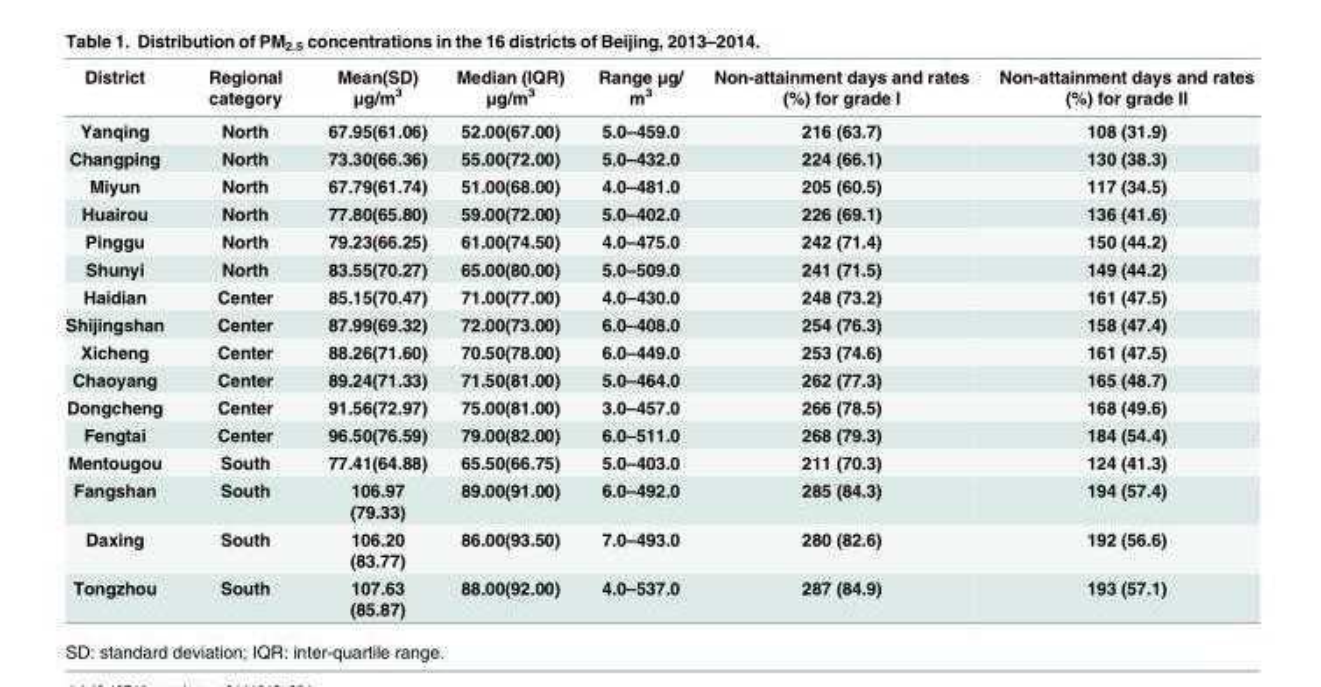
<table><thead><tr><td>District</td><td>Regional category</td><td>Mean(SD) μg/m<sup>3</sup></td><td>Median (IQR) μg/m<sup>3</sup></td><td>Range μg/ m<sup>3</sup></td><td>Non-attainment days and rates (%) for grade I</td><td>Non-attainment days and rates (%) for grade II</td></tr></thead><tbody><tr><td>Yanqing</td><td>North</td><td>67.95(61.06)</td><td>52.00(67.00)</td><td>5.0–459.0</td><td>216 (63.7)</td><td>108 (31.9)</td></tr><tr><td>Changping</td><td>North</td><td>73.30(66.36)</td><td>55.00(72.00)</td><td>5.0–432.0</td><td>224 (66.1)</td><td>130 (38.3)</td></tr><tr><td>Miyun</td><td>North</td><td>67.79(61.74)</td><td>51.00(68.00)</td><td>4.0–481.0</td><td>205 (60.5)</td><td>117 (34.5)</td></tr><tr><td>Huairou</td><td>North</td><td>77.80(65.80)</td><td>59.00(72.00)</td><td>5.0–402.0</td><td>226 (69.1)</td><td>136 (41.6)</td></tr><tr><td>Pinggu</td><td>North</td><td>79.23(66.25)</td><td>61.00(74.50)</td><td>4.0–475.0</td><td>242 (71.4)</td><td>150 (44.2)</td></tr><tr><td>Shunyi</td><td>North</td><td>83.55(70.27)</td><td>65.00(80.00)</td><td>5.0–509.0</td><td>241 (71.5)</td><td>149 (44.2)</td></tr><tr><td>Haidian</td><td>Center</td><td>85.15(70.47)</td><td>71.00(77.00)</td><td>4.0–430.0</td><td>248 (73.2)</td><td>161 (47.5)</td></tr><tr><td>Shijingshan</td><td>Center</td><td>87.99(69.32)</td><td>72.00(73.00)</td><td>6.0–408.0</td><td>254 (76.3)</td><td>158 (47.4)</td></tr><tr><td>Xicheng</td><td>Center</td><td>88.26(71.60)</td><td>70.50(78.00)</td><td>6.0–449.0</td><td>253 (74.6)</td><td>161 (47.5)</td></tr><tr><td>Chaoyang</td><td>Center</td><td>89.24(71.33)</td><td>71.50(81.00)</td><td>5.0–464.0</td><td>262 (77.3)</td><td>165 (48.7)</td></tr><tr><td>Dongcheng</td><td>Center</td><td>91.56(72.97)</td><td>75.00(81.00)</td><td>3.0–457.0</td><td>266 (78.5)</td><td>168 (49.6)</td></tr><tr><td>Fengtai</td><td>Center</td><td>96.50(76.59)</td><td>79.00(82.00)</td><td>6.0–511.0</td><td>268 (79.3)</td><td>184 (54.4)</td></tr><tr><td>Mentougou</td><td>South</td><td>77.41(64.88)</td><td>65.50(66.75)</td><td>5.0–403.0</td><td>211 (70.3)</td><td>124 (41.3)</td></tr><tr><td>Fangshan</td><td>South</td><td>106.97 (79.33)</td><td>89.00(91.00)</td><td>6.0–492.0</td><td>285 (84.3)</td><td>194 (57.4)</td></tr><tr><td>Daxing</td><td>South</td><td>106.20 (83.77)</td><td>86.00(93.50)</td><td>7.0–493.0</td><td>280 (82.6)</td><td>192 (56.6)</td></tr><tr><td>Tongzhou</td><td>South</td><td>107.63 (85.87)</td><td>88.00(92.00)</td><td>4.0–537.0</td><td>287 (84.9)</td><td>193 (57.1)</td></tr></tbody></table>